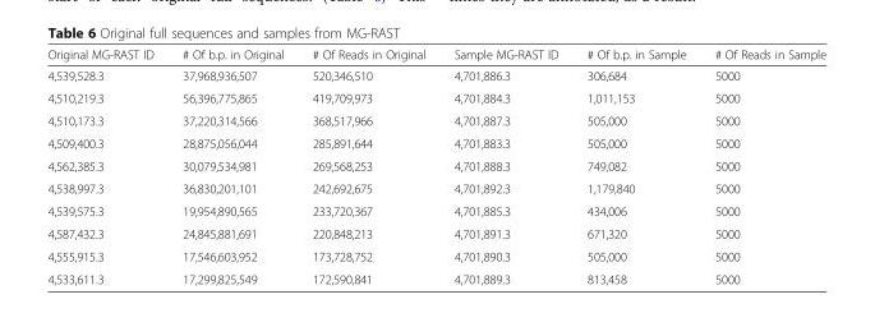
<table><thead><tr><td>Original MG-RAST ID</td><td># Of b.p. in Original</td><td># Of Reads in Original</td><td>Sample MG-RAST ID</td><td># Of b.p. in Sample</td><td># Of Reads in Sample</td></tr></thead><tbody><tr><td>4,539,528.3</td><td>37,968,936,507</td><td>520,346,510</td><td>4,701,886.3</td><td>306,684</td><td>5000</td></tr><tr><td>4,510,219.3</td><td>56,396,775,865</td><td>419,709,973</td><td>4,701,884.3</td><td>1,011,153</td><td>5000</td></tr><tr><td>4,510,173.3</td><td>37,220,314,566</td><td>368,517,966</td><td>4,701,887.3</td><td>505,000</td><td>5000</td></tr><tr><td>4,509,400.3</td><td>28,875,056,044</td><td>285,891,644</td><td>4,701,883.3</td><td>505,000</td><td>5000</td></tr><tr><td>4,562,385.3</td><td>30,079,534,981</td><td>269,568,253</td><td>4,701,888.3</td><td>749,082</td><td>5000</td></tr><tr><td>4,538,997.3</td><td>36,830,201,101</td><td>242,692,675</td><td>4,701,892.3</td><td>1,179,840</td><td>5000</td></tr><tr><td>4,539,575.3</td><td>19,954,890,565</td><td>233,720,367</td><td>4,701,885.3</td><td>434,006</td><td>5000</td></tr><tr><td>4,587,432.3</td><td>24,845,881,691</td><td>220,848,213</td><td>4,701,891.3</td><td>671,320</td><td>5000</td></tr><tr><td>4,555,915.3</td><td>17,546,603,952</td><td>173,728,752</td><td>4,701,890.3</td><td>505,000</td><td>5000</td></tr><tr><td>4,533,611.3</td><td>17,299,825,549</td><td>172,590,841</td><td>4,701,889.3</td><td>813,458</td><td>5000</td></tr></tbody></table>